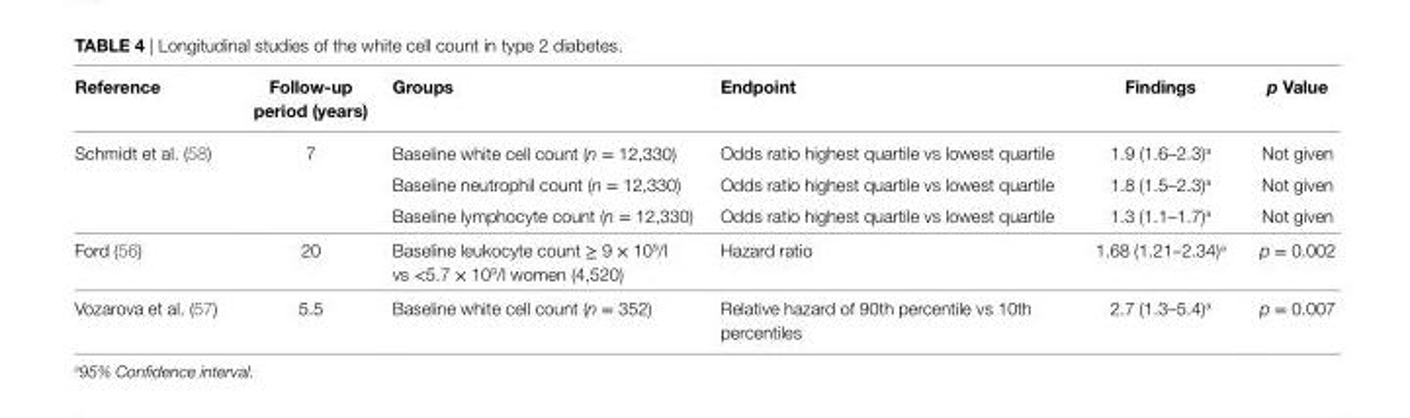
<table><thead><tr><td>Reference</td><td>Follow-up period (years)</td><td>Groups</td><td>endpoint</td><td>Findings</td><td>p value</td></tr></thead><tbody><tr><td rowspan="3">Schmidt et al. (58)</td><td>7</td><td>Baseline white cell count (n = 12,330)</td><td>Odds ratio highest quartile vs lowest quartile</td><td>1.9 (1.6–2.3)<sup>a</sup></td><td>Not given</td></tr><tr><td></td><td>Baseline neutrophil count (n = 12,330)</td><td>Odds ratio highest quartile vs lowest quartile</td><td>1.8 (1.5–2.3)<sup>a</sup></td><td>Not given</td></tr><tr><td></td><td>Baseline lymphocyte count (n = 12,330)</td><td>Odds ratio highest quartile vs lowest quartile</td><td>1.3 (1.1–1.7)<sup>a</sup></td><td>Not given</td></tr><tr><td>Ford (56)</td><td>20</td><td>Baseline leukocyte count ≥ 9 × 10<sup>9</sup>/l vs &lt;5.7 × 10<sup>9</sup>/l women (4,520)</td><td>Hazard ratio</td><td>1.68 (1.21–2.34)<sup>a</sup></td><td>p = 0.002</td></tr><tr><td>Vozarova et al. (57)</td><td>5.5</td><td>Baseline white cell count (n = 352)</td><td>Relative hazard of 90th percentile vs 10th percentiles</td><td>2.7 (1.3–5.4)<sup>a</sup></td><td>p = 0.007</td></tr></tbody></table>